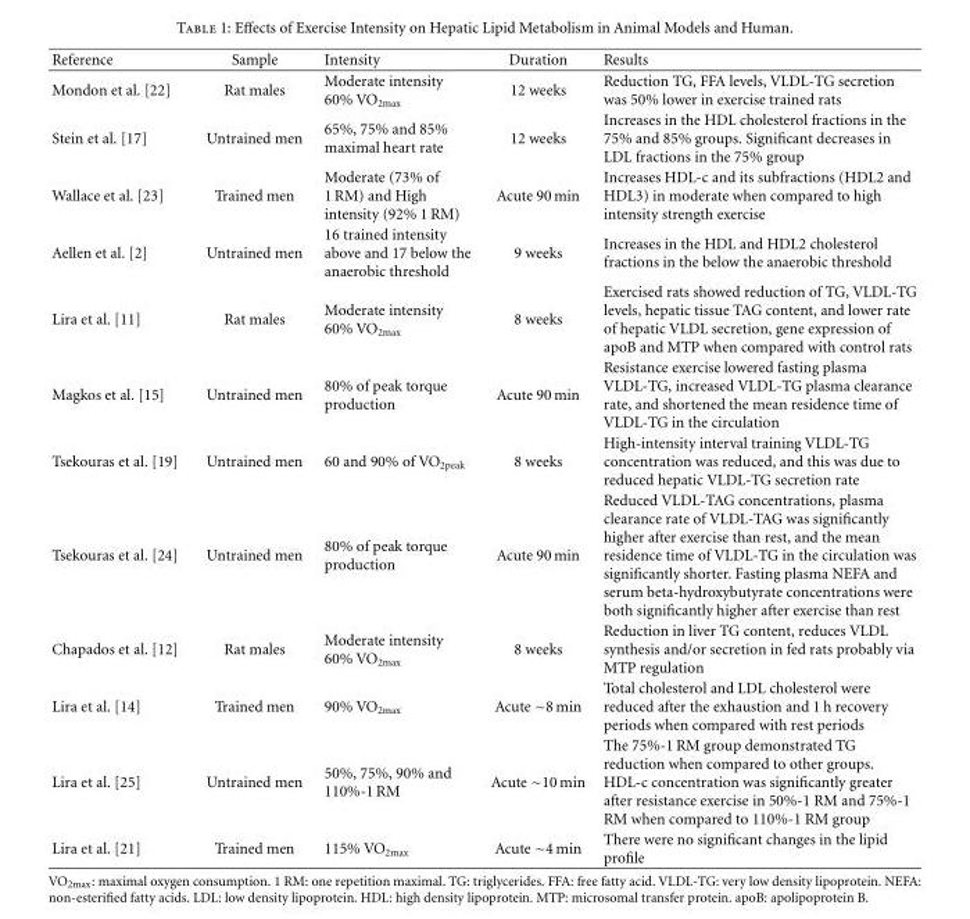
<table><thead><tr><td>Reference</td><td>Sample</td><td>Intensity</td><td>Duration</td><td>Results</td></tr></thead><tbody><tr><td>Mondon et al. [22]</td><td>Rat males</td><td>Moderate intensity 60% VO<sub>2max</sub></td><td>12 weeks</td><td>Reduction TG, FFA levels, VLDL-TG secretion was 50% lower in exercise trained rats</td></tr><tr><td>Stein et al. [17]</td><td>Untrained men</td><td>65%, 75% and 85% maximal heart rate</td><td>12 weeks</td><td>Increases in the HDL cholesterol fractions in the 75% and 85% groups. Significant decreases in LDL fractions in the 75% group</td></tr><tr><td>Wallace et al. [23]</td><td>Trained men</td><td>Moderate (73% of 1 RM) and High intensity (92% 1 RM)</td><td>Acute 90 min</td><td>Increases HDL-c and its subfractions (HDL2 and HDL3) in moderate when compared to high intensity strength exercise</td></tr><tr><td>Aellen et al. [2]</td><td>Untrained men</td><td>16 trained intensity above and 17 below the anaerobic threshold</td><td>9 weeks</td><td>Increases in the HDL and HDL2 cholesterol fractions in the below the anaerobic threshold</td></tr><tr><td>Lira et al. [11]</td><td>Rat males</td><td>Moderate intensity 60% VO<sub>2max</sub></td><td>8 weeks</td><td>Exercised rats showed reduction of TG, VLDL-TG levels, hepatic tissue TAG content, and lower rate of hepatic VLDL secretion, gene expression of apoB and MTP when compared with control rats</td></tr><tr><td>Magkos et al. [15]</td><td>Untrained men</td><td>80% of peak torque production</td><td>Acute 90 min</td><td>Resistance exercise lowered fasting plasma VLDL-TG, increased VLDL-TG plasma clearance rate, and shortened the mean residence time of VLDL-TG in the circulation</td></tr><tr><td>Tsekouras et al. [19]</td><td>Untrained men</td><td>60 and 90% of VO<sub>2peak</sub></td><td>8 weeks</td><td>High-intensity interval training VLDL-TG concentration was reduced, and this was due to reduced hepatic VLDL-TG secretion rate</td></tr><tr><td>Tsekouras et al. [24]</td><td>Untrained men</td><td>80% of peak torque production</td><td>Acute 90 min</td><td>Reduced VLDL-TAG concentrations, plasma clearance rate of VLDL-TAG was significantly higher after exercise than rest, and the mean residence time of VLDL-TG in the circulation was significantly shorter. Fasting plasma NEFA and serum beta-hydroxybutyrate concentrations were both significantly higher after exercise than rest</td></tr><tr><td>Chapados et al. [12]</td><td>Rat males</td><td>Moderate intensity 60% VO<sub>2max</sub></td><td>8 weeks</td><td>Reduction in liver TG content, reduces VLDL synthesis and/or secretion in fed rats probably via MTP regulation</td></tr><tr><td>Lira et al. [14]</td><td>Trained men</td><td>90% VO<sub>2max</sub></td><td>Acute ∼8 min</td><td>Total cholesterol and LDL cholesterol were reduced after the exhaustion and 1 h recovery periods when compared with rest periods</td></tr><tr><td>Lira et al. [25]</td><td>Untrained men</td><td>50%, 75%, 90% and 110%-1 RM</td><td>Acute ∼10 min</td><td>The 75%-1 RM group demonstrated TG reduction when compared to other groups. HDL-c concentration was significantly greater after resistance exercise in 50%-1 RM and 75%-1 RM when compared to 110%-1 RM group</td></tr><tr><td>Lira et al. [21]</td><td>Trained men</td><td>115% VO<sub>2max</sub></td><td>Acute ∼4 min</td><td>There were no significant changes in the lipid profile</td></tr></tbody></table>